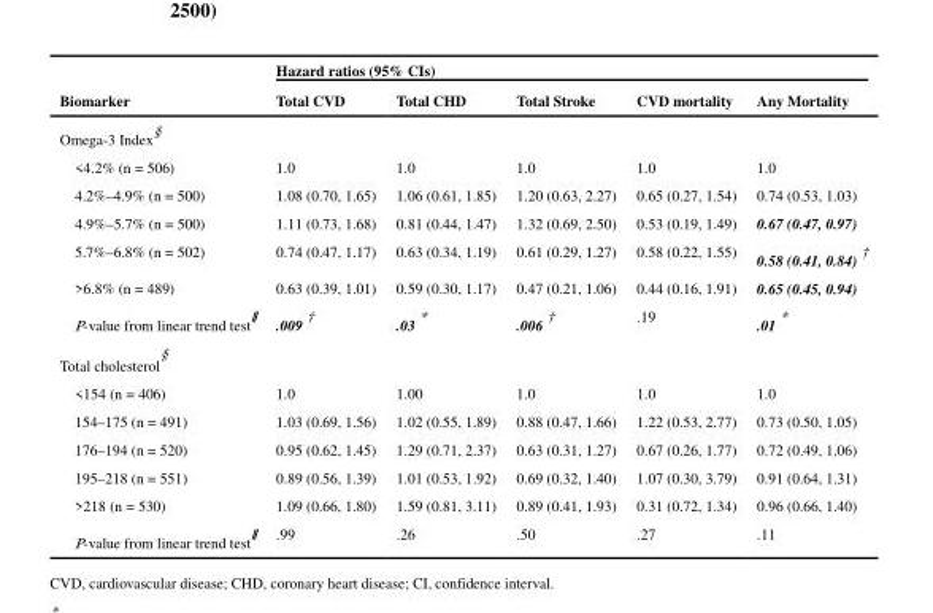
<table><thead><tr><td rowspan="2">Biomarker</td><td colspan="5">Hazard ratios (95% CIs)</td></tr><tr><td>Total CVD</td><td>Total CHD</td><td>Total Stroke</td><td>CVD mortality</td><td>Any Mortality</td></tr></thead><tbody><tr><td colspan="6">Omega-3 Index<sup>§</sup></td></tr><tr><td>&lt;4.2% (n = 506)</td><td>1.0</td><td>1.0</td><td>1.0</td><td>1.0</td><td>1.0</td></tr><tr><td>4.2%–4.9% (n = 500)</td><td>1.08 (0.70, 1.65)</td><td>1.06 (0.61, 1.85)</td><td>1.20 (0.63, 2.27)</td><td>0.65 (0.27, 1.54)</td><td>0.74 (0.53, 1.03)</td></tr><tr><td>4.9%–5.7% (n = 500)</td><td>1.11 (0.73, 1.68)</td><td>0.81 (0.44, 1.47)</td><td>1.32 (0.69, 2.50)</td><td>0.53 (0.19, 1.49)</td><td>0.67 (0.47, 0.97)</td></tr><tr><td>5.7%–6.8% (n = 502)</td><td>0.74 (0.47, 1.17)</td><td>0.63 (0.34, 1.19)</td><td>0.61 (0.29, 1.27)</td><td>0.58 (0.22, 1.55)</td><td>0.58 (0.41, 0.84) <sup>†</sup></td></tr><tr><td>&gt;6.8% (n = 489)</td><td>0.63 (0.39, 1.01)</td><td>0.59 (0.30, 1.17)</td><td>0.47 (0.21, 1.06)</td><td>0.44 (0.16, 1.91)</td><td>0.65 (0.45, 0.94)</td></tr><tr><td>P-value from linear trend test<sup>ǁ</sup></td><td>.009 <sup>†</sup></td><td>.03 *</td><td>.006 <sup>†</sup></td><td>.19</td><td>.01 *</td></tr><tr><td colspan="6">Total cholesterol §</td></tr><tr><td>&lt;154 (n = 406)</td><td>1.0</td><td>1.00</td><td>1.0</td><td>1.0</td><td>1.0</td></tr><tr><td>154–175 (n = 491)</td><td>1.03 (0.69, 1.56)</td><td>1.02 (0.55, 1.89)</td><td>0.88 (0.47, 1.66)</td><td>1.22 (0.53, 2.77)</td><td>0.73 (0.50, 1.05)</td></tr><tr><td>176–194 (n = 520)</td><td>0.95 (0.62, 1.45)</td><td>1.29 (0.71, 2.37)</td><td>0.63 (0.31, 1.27)</td><td>0.67 (0.26, 1.77)</td><td>0.72 (0.49, 1.06)</td></tr><tr><td>195–218 (n = 551)</td><td>0.89 (0.56, 1.39)</td><td>1.01 (0.53, 1.92)</td><td>0.69 (0.32, 1.40)</td><td>1.07 (0.30, 3.79)</td><td>0.91 (0.64, 1.31)</td></tr><tr><td>&gt;218 (n = 530)</td><td>1.09 (0.66, 1.80)</td><td>1.59 (0.81, 3.11)</td><td>0.89 (0.41, 1.93)</td><td>0.31 (0.72, 1.34)</td><td>0.96 (0.66, 1.40)</td></tr><tr><td>P-value from linear trend test<sup>ǁ</sup></td><td>.99</td><td>.26</td><td>.50</td><td>.27</td><td>.11</td></tr></tbody></table>